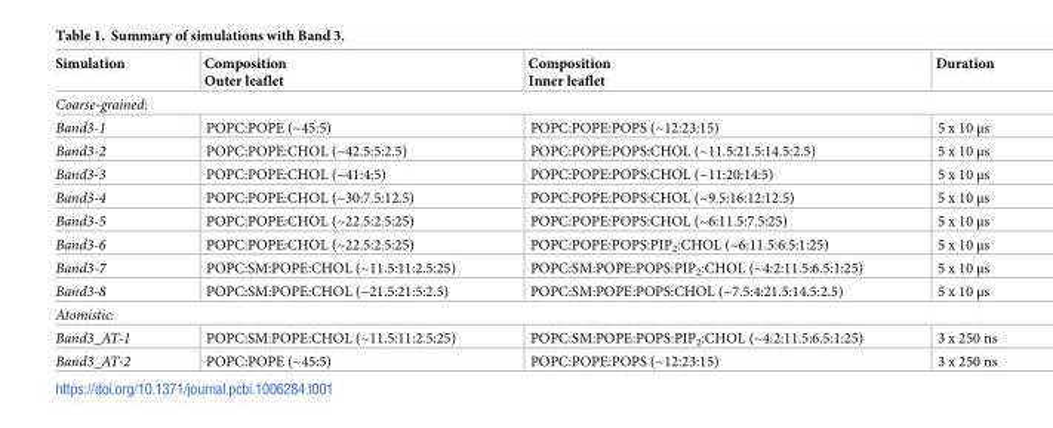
<table><thead><tr><td>Simulation</td><td>Composition Outer leaflet</td><td>Composition Inner leaflet</td><td>Duration</td></tr></thead><tbody><tr><td colspan="4">Coarse-grained:</td></tr><tr><td>Band3-1</td><td>POPC:POPE (~45:5)</td><td>POPC:POPE:POPS (~12:23:15)</td><td>5 x 10 μs</td></tr><tr><td>Band3-2</td><td>POPC:POPE:CHOL (~42.5:5:2.5)</td><td>POPC:POPE:POPS:CHOL (~11.5:21.5:14.5:2.5)</td><td>5 x 10 μs</td></tr><tr><td>Band3-3</td><td>POPC:POPE:CHOL (~41:4:5)</td><td>POPC:POPE:POPS:CHOL (~11:20:14:5)</td><td>5 x 10 μs</td></tr><tr><td>Band3-4</td><td>POPC:POPE:CHOL (~30:7.5:12.5)</td><td>POPC:POPE:POPS:CHOL (~9.5:16:12:12.5)</td><td>5 x 10 μs</td></tr><tr><td>Band3-5</td><td>POPC:POPE:CHOL (~22.5:2.5:25)</td><td>POPC:POPE:POPS:CHOL (~6:11.5:7.5:25)</td><td>5 x 10 μs</td></tr><tr><td>Band3-6</td><td>POPC:POPE:CHOL (~22.5:2.5:25)</td><td>POPC:POPE:POPS:PIP<sub>2</sub>:CHOL (~6:11.5:6.5:1:25)</td><td>5 x 10 μs</td></tr><tr><td>Band3-7</td><td>POPC:SM:POPE:CHOL (~11.5:11:2.5:25)</td><td>POPC:SM:POPE:POPS:PIP<sub>2</sub>:CHOL (~4:2:11.5:6.5:1:25)</td><td>5 x 10 μs</td></tr><tr><td>Band3-8</td><td>POPC:SM:POPE:CHOL (~21.5:21:5:2.5)</td><td>POPC:SM:POPE:POPS:CHOL (~7.5:4:21.5:14.5:2.5)</td><td>5 x 10 μs</td></tr><tr><td colspan="4">Atomistic:</td></tr><tr><td>Band3_AT-1</td><td>POPC:SM:POPE:CHOL (~11.5:11:2.5:25)</td><td>POPC:SM:POPE:POPS:PIP<sub>2</sub>:CHOL (~4:2:11.5:6.5:1:25)</td><td>3 x 250 ns</td></tr><tr><td>Band3_AT-2</td><td>POPC:POPE (~45:5)</td><td>POPC:POPE:POPS (~12:23:15)</td><td>3 x 250 ns</td></tr></tbody></table>